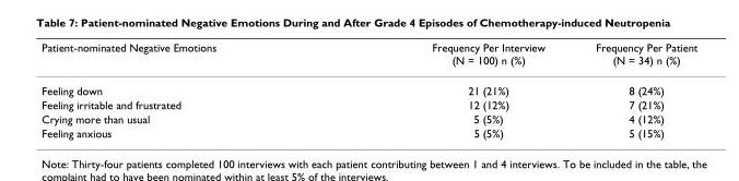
<table><thead><tr><td>Patient-nominated Negative Emotions</td><td>Frequency Per Interview (N = 100) n (%)</td><td>Frequency Per Patient (N = 34) n (%)</td></tr></thead><tbody><tr><td>Feeling down</td><td>21 (21%)</td><td>8 (24%)</td></tr><tr><td>Feeling irritable and frustrated</td><td>12 (12%)</td><td>7 (21%)</td></tr><tr><td>Crying more than usual</td><td>5 (5%)</td><td>4 (12%)</td></tr><tr><td>Feeling anxious</td><td>5 (5%)</td><td>5 (15%)</td></tr></tbody></table>